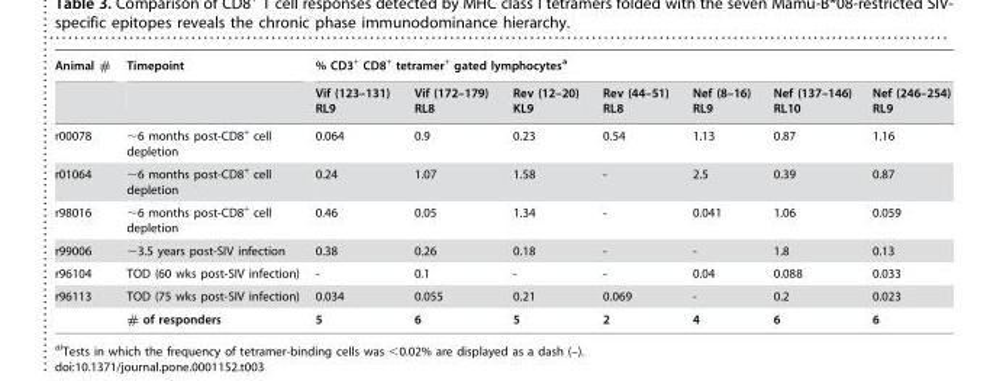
<table><thead><tr><td rowspan="2">Animal #</td><td rowspan="2">Timepoint</td><td colspan="7">% CD3<sup>+</sup> CD8<sup>+</sup> tetramer<sup>+</sup> gated lymphocytes<sup>a</sup></td></tr><tr><td>Vif (123–131) RL9</td><td>Vif (172–179) RL8</td><td>Rev (12–20) KL9</td><td>Rev (44–51) RL8</td><td>Nef (8–16) RL9</td><td>Nef (137–146) RL10</td><td>Nef (246–254) RL9</td></tr></thead><tbody><tr><td>r00078</td><td>∼6 months post-CD8<sup>+</sup> cell depletion</td><td>0.064</td><td>0.9</td><td>0.23</td><td>0.54</td><td>1.13</td><td>0.87</td><td>1.16</td></tr><tr><td>r01064</td><td>∼6 months post-CD8<sup>+</sup> cell depletion</td><td>0.24</td><td>1.07</td><td>1.58</td><td>-</td><td>2.5</td><td>0.39</td><td>0.87</td></tr><tr><td>r98016</td><td>∼6 months post-CD8<sup>+</sup> cell depletion</td><td>0.46</td><td>0.05</td><td>1.34</td><td>-</td><td>0.041</td><td>1.06</td><td>0.059</td></tr><tr><td>r99006</td><td>∼3.5 years post-SIV infection</td><td>0.38</td><td>0.26</td><td>0.18</td><td>-</td><td>-</td><td>1.8</td><td>0.13</td></tr><tr><td>r96104</td><td>TOD (60 wks post-SIV infection)</td><td>-</td><td>0.1</td><td>-</td><td>-</td><td>0.04</td><td>0.088</td><td>0.033</td></tr><tr><td rowspan="2">r96113</td><td>TOD (75 wks post-SIV infection)</td><td>0.034</td><td>0.055</td><td>0.21</td><td>0.069</td><td>-</td><td>0.2</td><td>0.023</td></tr><tr><td># of responders</td><td>5</td><td>6</td><td>5</td><td>2</td><td>4</td><td>6</td><td>6</td></tr></tbody></table>